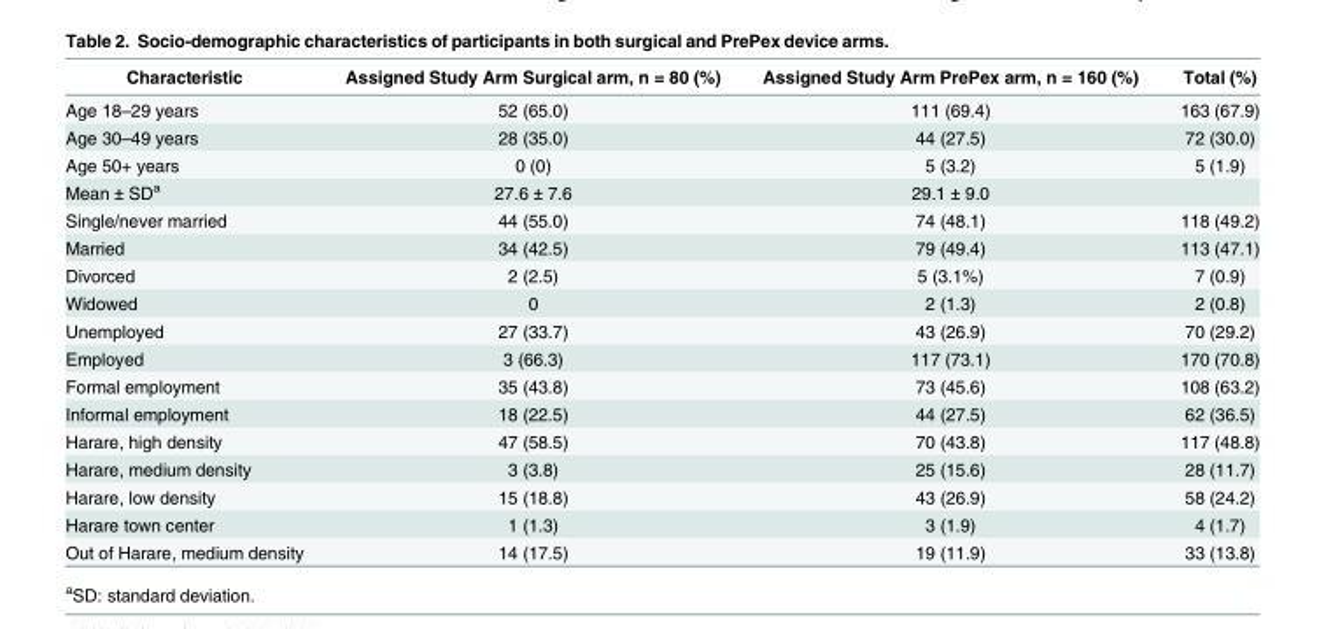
<table><thead><tr><td>Characteristic</td><td>Assigned Study Arm Surgical arm, n = 80 (%)</td><td>Assigned Study Arm PrePex arm, n = 160 (%)</td><td>Total (%)</td></tr></thead><tbody><tr><td>Age 18–29 years</td><td>52 (65.0)</td><td>111 (69.4)</td><td>163 (67.9)</td></tr><tr><td>Age 30–49 years</td><td>28 (35.0)</td><td>44 (27.5)</td><td>72 (30.0)</td></tr><tr><td>Age 50+ years</td><td>0 (0)</td><td>5 (3.2)</td><td>5 (1.9)</td></tr><tr><td>Mean ± SD<sup>a</sup></td><td>27.6 ± 7.6</td><td>29.1 ± 9.0</td><td></td></tr><tr><td>Single/never married</td><td>44 (55.0)</td><td>74 (48.1)</td><td>118 (49.2)</td></tr><tr><td>Married</td><td>34 (42.5)</td><td>79 (49.4)</td><td>113 (47.1)</td></tr><tr><td>Divorced</td><td>2 (2.5)</td><td>5 (3.1%)</td><td>7 (0.9)</td></tr><tr><td>Widowed</td><td>0</td><td>2 (1.3)</td><td>2 (0.8)</td></tr><tr><td>Unemployed</td><td>27 (33.7)</td><td>43 (26.9)</td><td>70 (29.2)</td></tr><tr><td>Employed</td><td>3 (66.3)</td><td>117 (73.1)</td><td>170 (70.8)</td></tr><tr><td>Formal employment</td><td>35 (43.8)</td><td>73 (45.6)</td><td>108 (63.2)</td></tr><tr><td>Informal employment</td><td>18 (22.5)</td><td>44 (27.5)</td><td>62 (36.5)</td></tr><tr><td>Harare, high density</td><td>47 (58.5)</td><td>70 (43.8)</td><td>117 (48.8)</td></tr><tr><td>Harare, medium density</td><td>3 (3.8)</td><td>25 (15.6)</td><td>28 (11.7)</td></tr><tr><td>Harare, low density</td><td>15 (18.8)</td><td>43 (26.9)</td><td>58 (24.2)</td></tr><tr><td>Harare town center</td><td>1 (1.3)</td><td>3 (1.9)</td><td>4 (1.7)</td></tr><tr><td>Out of Harare, medium density</td><td>14 (17.5)</td><td>19 (11.9)</td><td>33 (13.8)</td></tr></tbody></table>